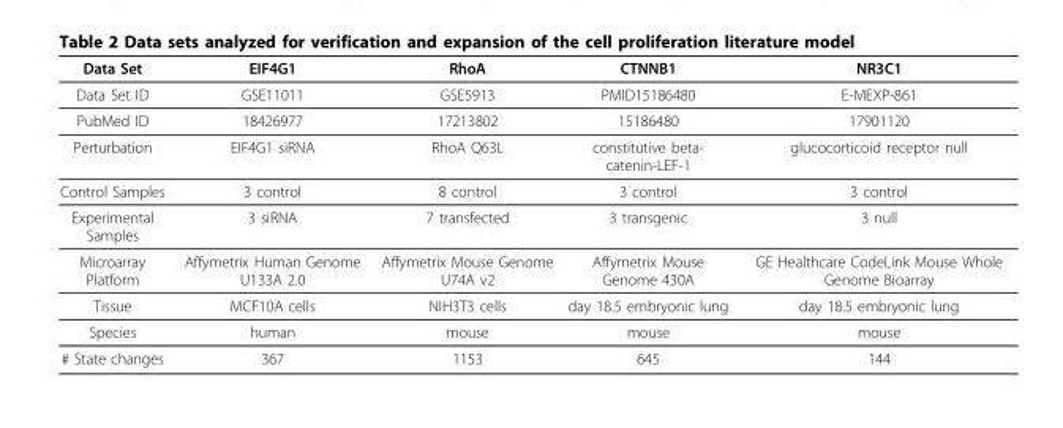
<table><thead><tr><td>Data Set</td><td>EIF4G1</td><td>RhoA</td><td>CTNNB1</td><td>NR3C1</td></tr></thead><tbody><tr><td>Data Set ID</td><td>GSE11011</td><td>GSE5913</td><td>PMID15186480</td><td>E-MEXP-861</td></tr><tr><td>PubMed ID</td><td>18426977</td><td>17213802</td><td>15186480</td><td>17901120</td></tr><tr><td>Perturbation</td><td>EIF4G1 siRNA</td><td>RhoA Q63L</td><td>constitutive beta- catenin-LEF-1</td><td>glucocorticoid receptor null</td></tr><tr><td>Control Samples</td><td>3 control</td><td>8 control</td><td>3 control</td><td>3 control</td></tr><tr><td>Experimental Samples</td><td>3 siRNA</td><td>7 transfected</td><td>3 transgenic</td><td>3 null</td></tr><tr><td>Microarray Platform</td><td>Affymetrix Human Genome U133A 2.0</td><td>Affymetrix Mouse Genome U74A v2</td><td>Affymetrix Mouse Genome 430A</td><td>GE Healthcare CodeLink Mouse Whole Genome Bioarray</td></tr><tr><td>Tissue</td><td>MCF10A cells</td><td>NIH3T3 cells</td><td>day 18.5 embryonic lung</td><td>day 18.5 embryonic lung</td></tr><tr><td>Species</td><td>human</td><td>mouse</td><td>mouse</td><td>mouse</td></tr><tr><td># State changes</td><td>367</td><td>1153</td><td>645</td><td>144</td></tr></tbody></table>